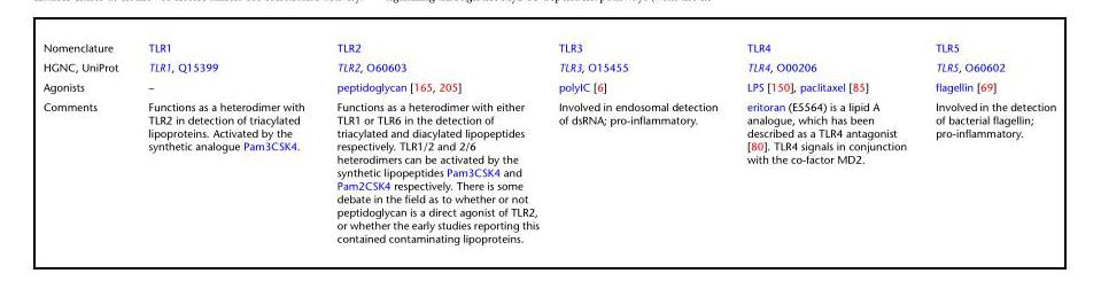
<table><tbody><tr><td>Nomenclature</td><td>TLR1</td><td>TLR2</td><td>TLR3</td><td>TLR4</td><td>TLR5</td></tr><tr><td>HGNC, UniProt</td><td>TLR1, Q15399</td><td>TLR2, O60603</td><td>TLR3, O15455</td><td>TLR4, O00206</td><td>TLR5, O60602</td></tr><tr><td>Agonists</td><td>–</td><td>peptidoglycan [165, 205]</td><td>polyIC [6]</td><td>LPS [150], paclitaxel [85]</td><td>flagellin [69]</td></tr><tr><td>Comments</td><td>Functions as a heterodimer with TLR2 in detection of triacylated lipoproteins. Activated by the synthetic analogue Pam3CSK4.</td><td>Functions as a heterodimer with either TLR1 or TLR6 in the detection of triacylated and diacylated lipopeptides respectively. TLR1/2 and 2/6 heterodimers can be activated by the synthetic lipopeptides Pam3CSK4 and Pam2CSK4 respectively. There is some debate in the field as to whether or not peptidoglycan is a direct agonist of TLR2, or whether the early studies reporting this contained contaminating lipoproteins.</td><td>Involved in endosomal detection of dsRNA; pro-inflammatory.</td><td>eritoran (E5564) is a lipid A analogue, which has been described as a TLR4 antagonist [80]. TLR4 signals in conjunction with the co-factor MD2.</td><td>Involved in the detection of bacterial flagellin; pro-inflammatory.</td></tr></tbody></table>